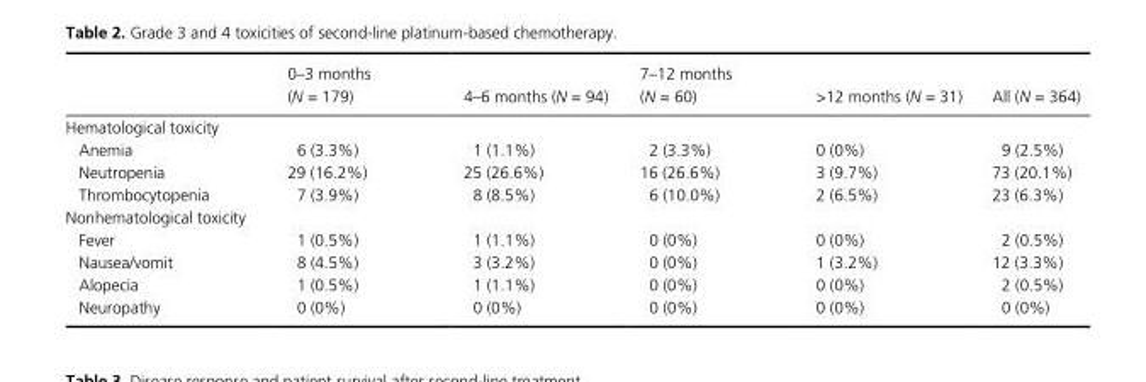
<table><thead><tr><td></td><td>0–3 months (N = 179)</td><td>4–6 months (N = 94)</td><td>7–12 months (N = 60)</td><td>&gt;12 months (N = 31)</td><td>All (N = 364)</td></tr></thead><tbody><tr><td colspan="6">Hematological toxicity</td></tr><tr><td>Anemia</td><td>6 (3.3%)</td><td>1 (1.1%)</td><td>2 (3.3%)</td><td>0 (0%)</td><td>9 (2.5%)</td></tr><tr><td>Neutropenia</td><td>29 (16.2%)</td><td>25 (26.6%)</td><td>16 (26.6%)</td><td>3 (9.7%)</td><td>73 (20.1%)</td></tr><tr><td>Thrombocytopenia</td><td>7 (3.9%)</td><td>8 (8.5%)</td><td>6 (10.0%)</td><td>2 (6.5%)</td><td>23 (6.3%)</td></tr><tr><td colspan="6">Nonhematological toxicity</td></tr><tr><td>Fever</td><td>1 (0.5%)</td><td>1 (1.1%)</td><td>0 (0%)</td><td>0 (0%)</td><td>2 (0.5%)</td></tr><tr><td>Nausea/vomit</td><td>8 (4.5%)</td><td>3 (3.2%)</td><td>0 (0%)</td><td>1 (3.2%)</td><td>12 (3.3%)</td></tr><tr><td>Alopecia</td><td>1 (0.5%)</td><td>1 (1.1%)</td><td>0 (0%)</td><td>0 (0%)</td><td>2 (0.5%)</td></tr><tr><td>Neuropathy</td><td>0 (0%)</td><td>0 (0%)</td><td>0 (0%)</td><td>0 (0%)</td><td>0 (0%)</td></tr></tbody></table>